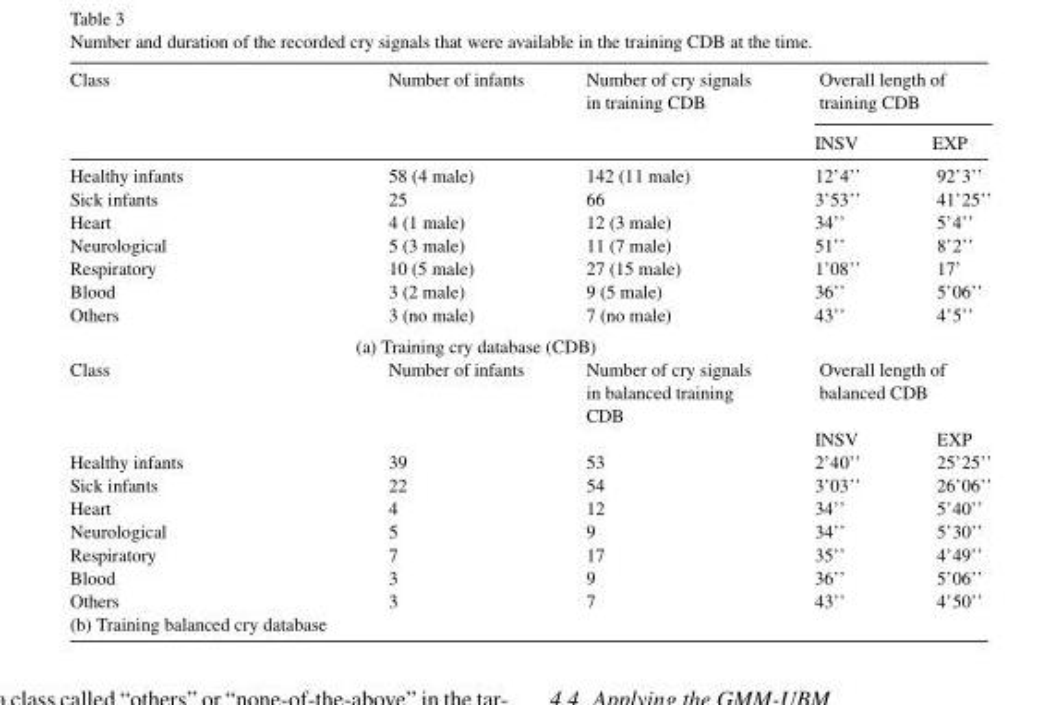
<table><thead><tr><td rowspan="2">Class</td><td rowspan="2">Number of infants</td><td rowspan="2">Number of cry signals in training CDB</td><td colspan="2">Overall length of training CDB</td></tr><tr><td>INSV</td><td>EXP</td></tr></thead><tbody><tr><td>Healthy infants</td><td>58 (4 male)</td><td>142 (11 male)</td><td>12’4’’</td><td>92’3’’</td></tr><tr><td>Sick infants</td><td>25</td><td>66</td><td>3’53’’</td><td>41’25’’</td></tr><tr><td>Heart</td><td>4 (1 male)</td><td>12 (3 male)</td><td>34’’</td><td>5’4’’</td></tr><tr><td>Neurological</td><td>5 (3 male)</td><td>11 (7 male)</td><td>51’’</td><td>8’2’’</td></tr><tr><td>Respiratory</td><td>10 (5 male)</td><td>27 (15 male)</td><td>1’08’’</td><td>17’</td></tr><tr><td>Blood</td><td>3 (2 male)</td><td>9 (5 male)</td><td>36’’</td><td>5’06’’</td></tr><tr><td>Others</td><td>3 (no male)</td><td>7 (no male)</td><td>43’’</td><td>4’5’’</td></tr><tr><td colspan="5">(a) Training cry database (CDB)</td></tr><tr><td rowspan="2">Class</td><td>Number of infants</td><td>Number of cry signals in balanced training CDB</td><td colspan="2">Overall length of balanced CDB</td></tr><tr><td></td><td></td><td>INSV</td><td>EXP</td></tr><tr><td>Healthy infants</td><td>39</td><td>53</td><td>2’40’’</td><td>25’25’’</td></tr><tr><td>Sick infants</td><td>22</td><td>54</td><td>3’03’’</td><td>26’06’’</td></tr><tr><td>Heart</td><td>4</td><td>12</td><td>34’’</td><td>5’40’’</td></tr><tr><td>Neurological</td><td>5</td><td>9</td><td>34’’</td><td>5’30’’</td></tr><tr><td>Respiratory</td><td>7</td><td>17</td><td>35’’</td><td>4’49’’</td></tr><tr><td>Blood</td><td>3</td><td>9</td><td>36’’</td><td>5’06’’</td></tr><tr><td>Others</td><td>3</td><td>7</td><td>43’’</td><td>4’50’’</td></tr><tr><td>(b) Training balanced cry database</td><td></td><td></td><td></td><td></td></tr></tbody></table>